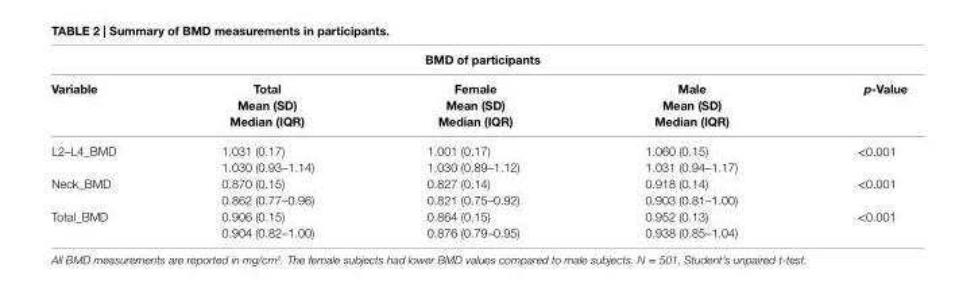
<table><thead><tr><td colspan="5">BMD of participants</td></tr><tr><td>Variable</td><td>Total Mean (sD) Median (iQr)</td><td>Female Mean (sD) Median (iQr)</td><td>Male Mean (sD) Median (iQr)</td><td>p-Value</td></tr></thead><tbody><tr><td rowspan="2">L2–L4_BMD</td><td>1.031 (0.17)</td><td>1.001 (0.17)</td><td>1.060 (0.15)</td><td rowspan="2">&lt;0.001</td></tr><tr><td>1.030 (0.93–1.14)</td><td>1.030 (0.89–1.12)</td><td>1.031 (0.94–1.17)</td></tr><tr><td rowspan="2">Neck_BMD</td><td>0.870 (0.15)</td><td>0.827 (0.14)</td><td>0.918 (0.14)</td><td rowspan="2">&lt;0.001</td></tr><tr><td>0.862 (0.77–0.96)</td><td>0.821 (0.75–0.92)</td><td>0.903 (0.81–1.00)</td></tr><tr><td rowspan="2">Total_BMD</td><td>0.906 (0.15)</td><td>0.864 (0.15)</td><td>0.952 (0.13)</td><td rowspan="2">&lt;0.001</td></tr><tr><td>0.904 (0.82–1.00)</td><td>0.876 (0.79–0.95)</td><td>0.938 (0.85–1.04)</td></tr></tbody></table>